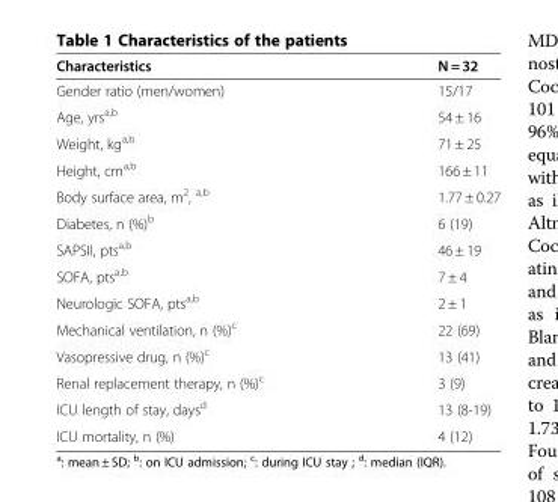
<table><thead><tr><td>Characteristics</td><td>N = 32</td></tr></thead><tbody><tr><td>Gender ratio (men/women)</td><td>15/17</td></tr><tr><td>Age, yrs<sup>a,b</sup></td><td>54 ± 16</td></tr><tr><td>Weight, kg<sup>a,b</sup></td><td>71 ± 25</td></tr><tr><td>Height, cm<sup>a,b</sup></td><td>166 ± 11</td></tr><tr><td>Body surface area, m<sup>2</sup>, <sup>a,b</sup></td><td>1.77 ± 0.27</td></tr><tr><td>Diabetes, n (%)<sup>b</sup></td><td>6 (19)</td></tr><tr><td>SAPSII, pts<sup>a,b</sup></td><td>46 ± 19</td></tr><tr><td>SOFA, pts<sup>a,b</sup></td><td>7 ± 4</td></tr><tr><td>Neurologic SOFA, pts<sup>a,b</sup></td><td>2 ± 1</td></tr><tr><td>Mechanical ventilation, n (%)<sup>c</sup></td><td>22 (69)</td></tr><tr><td>Vasopressive drug, n (%)<sup>c</sup></td><td>13 (41)</td></tr><tr><td>Renal replacement therapy, n (%)<sup>c</sup></td><td>3 (9)</td></tr><tr><td>ICU length of stay, days<sup>d</sup></td><td>13 (8-19)</td></tr><tr><td>ICU mortality, n (%)</td><td>4 (12)</td></tr></tbody></table>